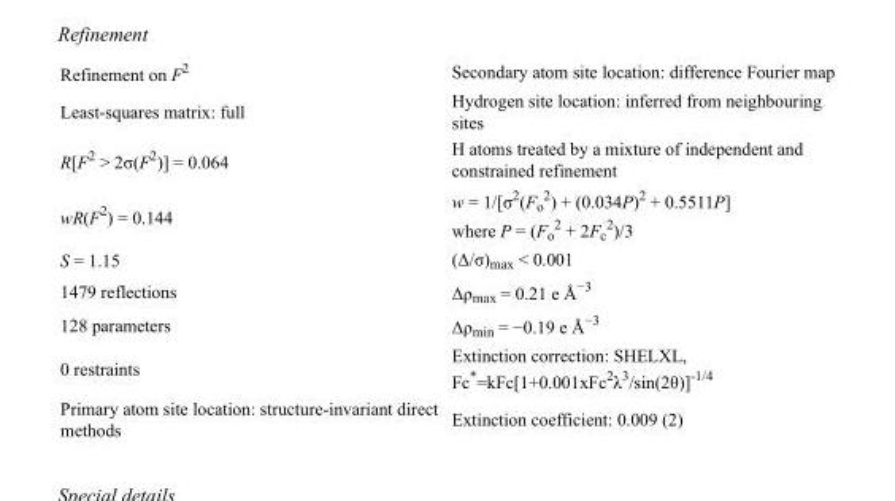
<table><tbody><tr><td>Refinement on F<sup>2</sup></td><td>Secondary atom site location: difference Fourier map</td></tr><tr><td>Least-squares matrix: full</td><td>Hydrogen site location: inferred from neighbouring sites</td></tr><tr><td>R[F<sup>2</sup> &gt; 2σ(F<sup>2</sup>)] = 0.064</td><td>H atoms treated by a mixture of independent and constrained refinement</td></tr><tr><td>wR(F<sup>2</sup>) = 0.144</td><td>w = 1/[σ<sup>2</sup>(F<sub>o</sub> <sup>2</sup>) + (0.034P)<sup>2</sup> + 0.5511P] where P = (F<sub>o</sub> <sup>2</sup> + 2F<sub>c</sub> <sup>2</sup>)/3</td></tr><tr><td>S = 1.15</td><td>(Δ/σ)<sub>max</sub> &lt; 0.001</td></tr><tr><td>1479 reflections</td><td>Δρ<sub>max</sub> = 0.21 e Å<sup>−3</sup></td></tr><tr><td>128 parameters</td><td>Δρ<sub>min</sub> = −0.19 e Å<sup>−3</sup></td></tr><tr><td>0 restraints</td><td>Extinction correction: SHELXL, Fc*=kFc[1+0.001xFc<sup>2</sup>λ<sup>3</sup>/sin(2θ)]<sup>-1/4</sup></td></tr><tr><td>Primary atom site location: structure-invariant direct methods</td><td>Extinction coefficient: 0.009 (2)</td></tr></tbody></table>